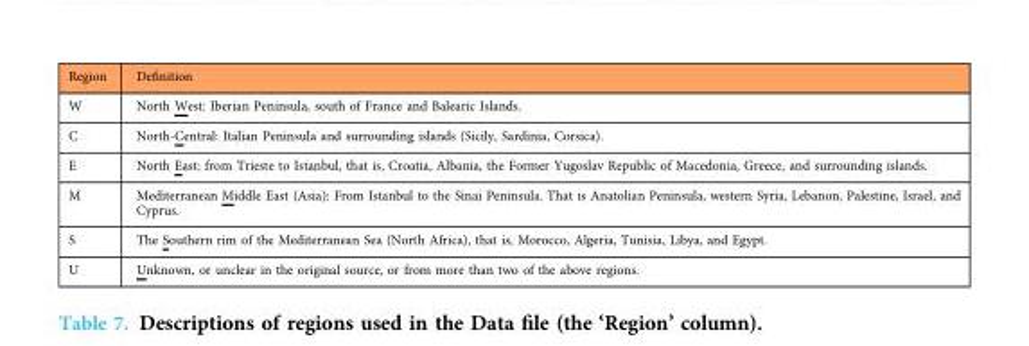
<table><thead><tr><td>Region</td><td>Definition</td></tr></thead><tbody><tr><td>W</td><td>North West: Iberian Peninsula, south of France and Balearic Islands.</td></tr><tr><td>C</td><td>North-Central: Italian Peninsula and surrounding islands (Sicily, Sardinia, Corsica).</td></tr><tr><td>E</td><td>North East: from Trieste to Istanbul, that is, Croatia, Albania, the Former Yugoslav Republic of Macedonia, Greece, and surrounding islands.</td></tr><tr><td>M</td><td>Mediterranean Middle East (Asia): From Istanbul to the Sinai Peninsula. That is Anatolian Peninsula, western Syria, Lebanon, Palestine, Israel, and Cyprus.</td></tr><tr><td>S</td><td>The Southern rim of the Mediterranean Sea (North Africa), that is, Morocco, Algeria, Tunisia, Libya, and Egypt.</td></tr><tr><td>U</td><td>Unknown, or unclear in the original source, or from more than two of the above regions.</td></tr></tbody></table>